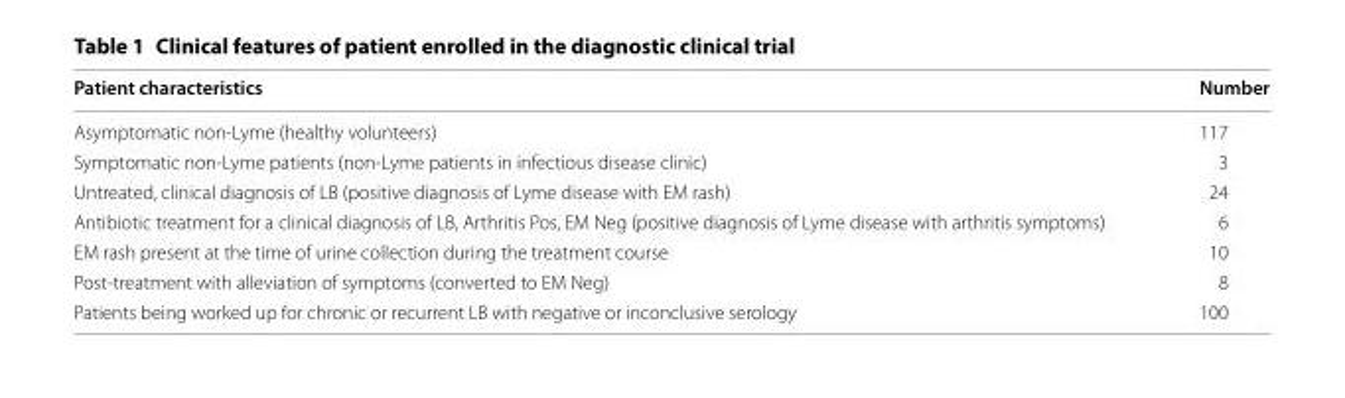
<table><thead><tr><td>Patient characteristics</td><td>Number</td></tr></thead><tbody><tr><td>Asymptomatic non-Lyme (healthy volunteers)</td><td>117</td></tr><tr><td>Symptomatic non-Lyme patients (non-Lyme patients in infectious disease clinic)</td><td>3</td></tr><tr><td>Untreated, clinical diagnosis of LB (positive diagnosis of Lyme disease with EM rash)</td><td>24</td></tr><tr><td>Antibiotic treatment for a clinical diagnosis of LB, Arthritis Pos, EM Neg (positive diagnosis of Lyme disease with arthritis symptoms)</td><td>6</td></tr><tr><td>EM rash present at the time of urine collection during the treatment course</td><td>10</td></tr><tr><td>Post-treatment with alleviation of symptoms (converted to EM Neg)</td><td>8</td></tr><tr><td>Patients being worked up for chronic or recurrent LB with negative or inconclusive serology</td><td>100</td></tr></tbody></table>